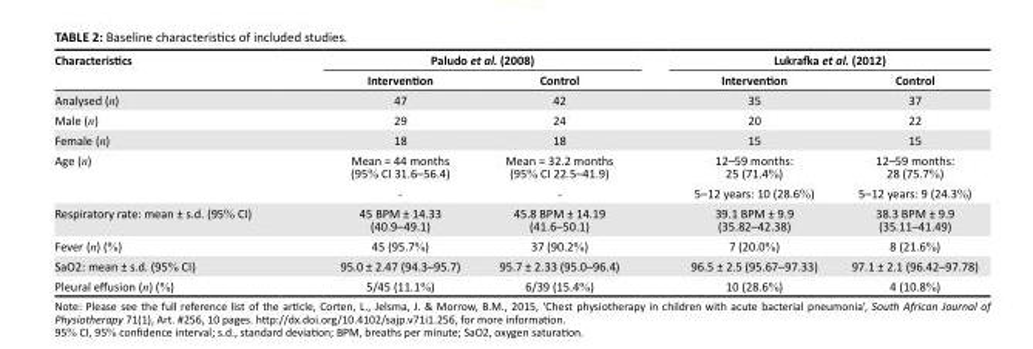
<table><thead><tr><td rowspan="2">Characteristics</td><td colspan="2">Paludo et al. (2008)</td><td colspan="2">Lukrafka et al. (2012)</td></tr><tr><td>Intervention</td><td>Control</td><td>Intervention</td><td>Control</td></tr></thead><tbody><tr><td>Analysed (n)</td><td>47</td><td>42</td><td>35</td><td>37</td></tr><tr><td>Male (n)</td><td>29</td><td>24</td><td>20</td><td>22</td></tr><tr><td>Female (n)</td><td>18</td><td>18</td><td>15</td><td>15</td></tr><tr><td rowspan="2">Age (n)</td><td>Mean = 44 months (95% CI 31.6–56.4)</td><td>Mean = 32.2 months (95% CI 22.5–41.9)</td><td>12–59 months: 25 (71.4%)</td><td>12–59 months: 28 (75.7%)</td></tr><tr><td>-</td><td>-</td><td>5–12 years: 10 (28.6%)</td><td>5–12 years: 9 (24.3%)</td></tr><tr><td>Respiratory rate: mean ± s.d. (95% CI)</td><td>45 BPM ± 14.33 (40.9–49.1)</td><td>45.8 BPM ± 14.19 (41.6–50.1)</td><td>39.1 BPM ± 9.9 (35.82–42.38)</td><td>38.3 BPM ± 9.9 (35.11–41.49)</td></tr><tr><td>Fever (n) (%)</td><td>45 (95.7%)</td><td>37 (90.2%)</td><td>7 (20.0%)</td><td>8 (21.6%)</td></tr><tr><td>SaO2: mean ± s.d. (95% CI)</td><td>95.0 ± 2.47 (94.3–95.7)</td><td>95.7 ± 2.33 (95.0–96.4)</td><td>96.5 ± 2.5 (95.67–97.33)</td><td>97.1 ± 2.1 (96.42–97.78)</td></tr><tr><td>Pleural effusion (n) (%)</td><td>5/45 (11.1%)</td><td>6/39 (15.4%)</td><td>10 (28.6%)</td><td>4 (10.8%)</td></tr></tbody></table>